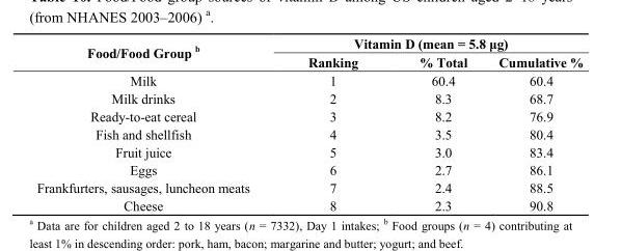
<table><thead><tr><td rowspan="2">Food/Food Group <sup>b</sup></td><td colspan="3">Vitamin D (mean = 5.8 μg)</td></tr><tr><td>Ranking</td><td>% Total</td><td>Cumulative %</td></tr></thead><tbody><tr><td>Milk</td><td>1</td><td>60.4</td><td>60.4</td></tr><tr><td>Milk drinks</td><td>2</td><td>8.3</td><td>68.7</td></tr><tr><td>Ready-to-eat cereal</td><td>3</td><td>8.2</td><td>76.9</td></tr><tr><td>Fish and shellfish</td><td>4</td><td>3.5</td><td>80.4</td></tr><tr><td>Fruit juice</td><td>5</td><td>3.0</td><td>83.4</td></tr><tr><td>Eggs</td><td>6</td><td>2.7</td><td>86.1</td></tr><tr><td>Frankfurters, sausages, luncheon meats</td><td>7</td><td>2.4</td><td>88.5</td></tr><tr><td>Cheese</td><td>8</td><td>2.3</td><td>90.8</td></tr></tbody></table>